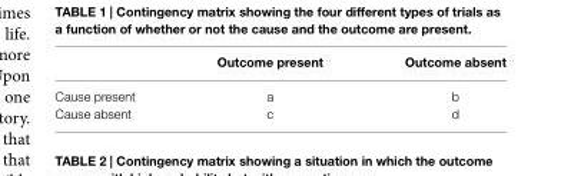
<table><thead><tr><td></td><td>Outcome present</td><td>Outcome absent</td></tr></thead><tbody><tr><td>Cause present</td><td>a</td><td>b</td></tr><tr><td>Cause absent</td><td>c</td><td>d</td></tr></tbody></table>